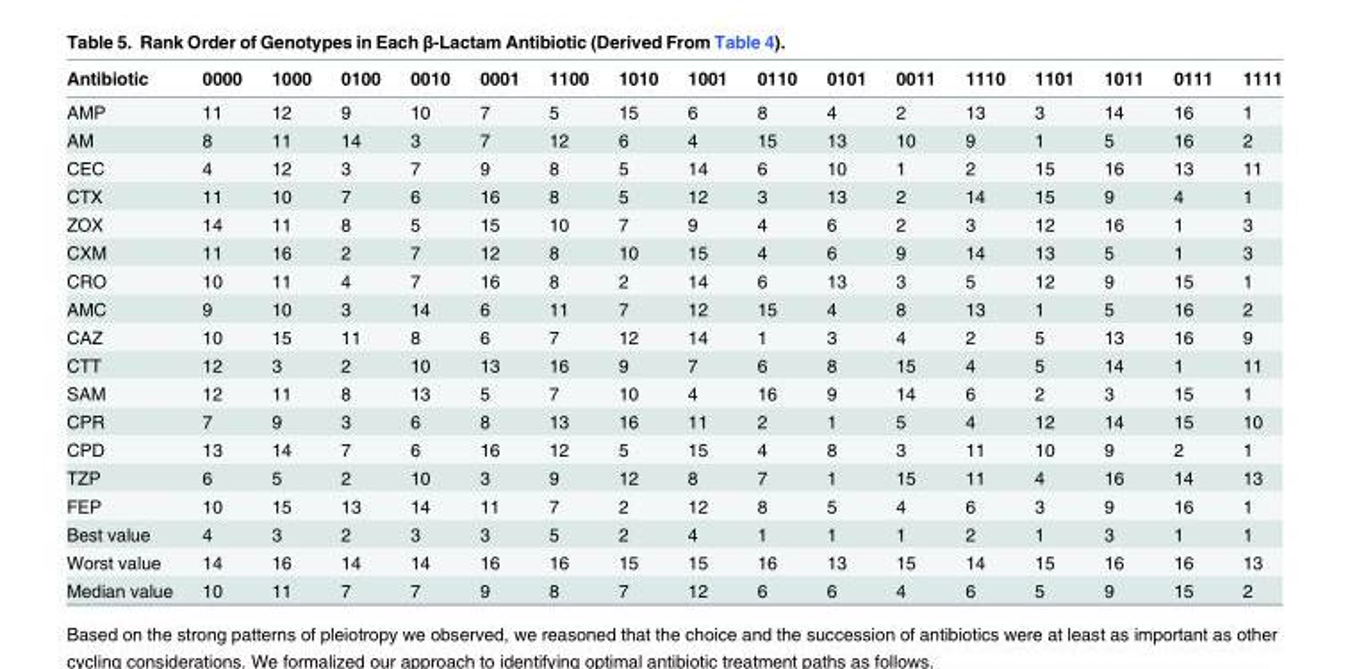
<table><thead><tr><td>Antibiotic</td><td>0000</td><td>1000</td><td>0100</td><td>0010</td><td>0001</td><td>1100</td><td>1010</td><td>1001</td><td>0110</td><td>0101</td><td>0011</td><td>1110</td><td>1101</td><td>1011</td><td>0111</td><td>1111</td></tr></thead><tbody><tr><td>AMP</td><td>11</td><td>12</td><td>9</td><td>10</td><td>7</td><td>5</td><td>15</td><td>6</td><td>8</td><td>4</td><td>2</td><td>13</td><td>3</td><td>14</td><td>16</td><td>1</td></tr><tr><td>AM</td><td>8</td><td>11</td><td>14</td><td>3</td><td>7</td><td>12</td><td>6</td><td>4</td><td>15</td><td>13</td><td>10</td><td>9</td><td>1</td><td>5</td><td>16</td><td>2</td></tr><tr><td>CEC</td><td>4</td><td>12</td><td>3</td><td>7</td><td>9</td><td>8</td><td>5</td><td>14</td><td>6</td><td>10</td><td>1</td><td>2</td><td>15</td><td>16</td><td>13</td><td>11</td></tr><tr><td>CTX</td><td>11</td><td>10</td><td>7</td><td>6</td><td>16</td><td>8</td><td>5</td><td>12</td><td>3</td><td>13</td><td>2</td><td>14</td><td>15</td><td>9</td><td>4</td><td>1</td></tr><tr><td>ZOX</td><td>14</td><td>11</td><td>8</td><td>5</td><td>15</td><td>10</td><td>7</td><td>9</td><td>4</td><td>6</td><td>2</td><td>3</td><td>12</td><td>16</td><td>1</td><td>3</td></tr><tr><td>CXM</td><td>11</td><td>16</td><td>2</td><td>7</td><td>12</td><td>8</td><td>10</td><td>15</td><td>4</td><td>6</td><td>9</td><td>14</td><td>13</td><td>5</td><td>1</td><td>3</td></tr><tr><td>CRO</td><td>10</td><td>11</td><td>4</td><td>7</td><td>16</td><td>8</td><td>2</td><td>14</td><td>6</td><td>13</td><td>3</td><td>5</td><td>12</td><td>9</td><td>15</td><td>1</td></tr><tr><td>AMC</td><td>9</td><td>10</td><td>3</td><td>14</td><td>6</td><td>11</td><td>7</td><td>12</td><td>15</td><td>4</td><td>8</td><td>13</td><td>1</td><td>5</td><td>16</td><td>2</td></tr><tr><td>CAZ</td><td>10</td><td>15</td><td>11</td><td>8</td><td>6</td><td>7</td><td>12</td><td>14</td><td>1</td><td>3</td><td>4</td><td>2</td><td>5</td><td>13</td><td>16</td><td>9</td></tr><tr><td>CTT</td><td>12</td><td>3</td><td>2</td><td>10</td><td>13</td><td>16</td><td>9</td><td>7</td><td>6</td><td>8</td><td>15</td><td>4</td><td>5</td><td>14</td><td>1</td><td>11</td></tr><tr><td>SAM</td><td>12</td><td>11</td><td>8</td><td>13</td><td>5</td><td>7</td><td>10</td><td>4</td><td>16</td><td>9</td><td>14</td><td>6</td><td>2</td><td>3</td><td>15</td><td>1</td></tr><tr><td>CPR</td><td>7</td><td>9</td><td>3</td><td>6</td><td>8</td><td>13</td><td>16</td><td>11</td><td>2</td><td>1</td><td>5</td><td>4</td><td>12</td><td>14</td><td>15</td><td>10</td></tr><tr><td>CPD</td><td>13</td><td>14</td><td>7</td><td>6</td><td>16</td><td>12</td><td>5</td><td>15</td><td>4</td><td>8</td><td>3</td><td>11</td><td>10</td><td>9</td><td>2</td><td>1</td></tr><tr><td>TZP</td><td>6</td><td>5</td><td>2</td><td>10</td><td>3</td><td>9</td><td>12</td><td>8</td><td>7</td><td>1</td><td>15</td><td>11</td><td>4</td><td>16</td><td>14</td><td>13</td></tr><tr><td>FEP</td><td>10</td><td>15</td><td>13</td><td>14</td><td>11</td><td>7</td><td>2</td><td>12</td><td>8</td><td>5</td><td>4</td><td>6</td><td>3</td><td>9</td><td>16</td><td>1</td></tr><tr><td>Best value</td><td>4</td><td>3</td><td>2</td><td>3</td><td>3</td><td>5</td><td>2</td><td>4</td><td>1</td><td>1</td><td>1</td><td>2</td><td>1</td><td>3</td><td>1</td><td>1</td></tr><tr><td>Worst value</td><td>14</td><td>16</td><td>14</td><td>14</td><td>16</td><td>16</td><td>15</td><td>15</td><td>16</td><td>13</td><td>15</td><td>14</td><td>15</td><td>16</td><td>16</td><td>13</td></tr><tr><td>Median value</td><td>10</td><td>11</td><td>7</td><td>7</td><td>9</td><td>8</td><td>7</td><td>12</td><td>6</td><td>6</td><td>4</td><td>6</td><td>5</td><td>9</td><td>15</td><td>2</td></tr></tbody></table>